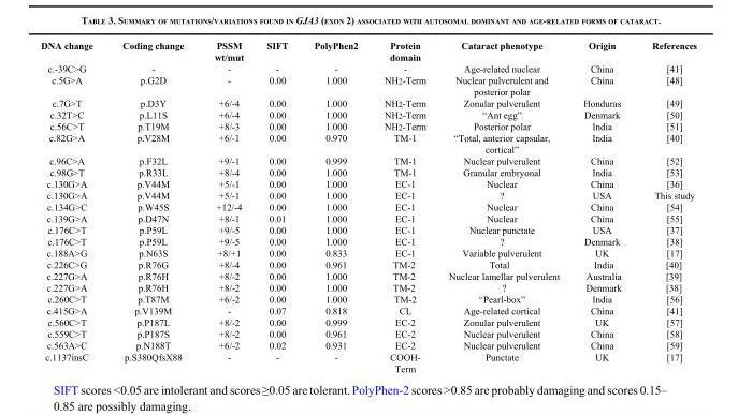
<table><thead><tr><td>DNA change</td><td>Coding change</td><td>PSSM wt/mut</td><td>SIFT</td><td>PolyPhen2</td><td>Protein domain</td><td>Cataract phenotype</td><td>Origin</td><td>References</td></tr></thead><tbody><tr><td>c.-39C&gt;G</td><td>-</td><td>-</td><td>-</td><td>-</td><td>-</td><td>Age-related nuclear</td><td>China</td><td>[41]</td></tr><tr><td>c.5G&gt;A</td><td>p.G2D</td><td>-</td><td>0.00</td><td>1.000</td><td>NH<sub>2</sub>-Term</td><td>Nuclear pulverulent and posterior polar</td><td>China</td><td>[48]</td></tr><tr><td>c.7G&gt;T</td><td>p.D3Y</td><td>+6/-4</td><td>0.00</td><td>1.000</td><td>NH<sub>2</sub>-Term</td><td>Zonular pulverulent</td><td>Honduras</td><td>[49]</td></tr><tr><td>c.32T&gt;C</td><td>p.L11S</td><td>+6/-4</td><td>0.00</td><td>1.000</td><td>NH<sub>2</sub>-Term</td><td>“Ant egg”</td><td>Denmark</td><td>[50]</td></tr><tr><td>c.56C&gt;T</td><td>p.T19M</td><td>+8/-3</td><td>0.00</td><td>1.000</td><td>NH<sub>2</sub>-Term</td><td>Posterior polar</td><td>India</td><td>[51]</td></tr><tr><td>c.82G&gt;A</td><td>p.V28M</td><td>+6/-1</td><td>0.00</td><td>0.970</td><td>TM-1</td><td>“Total, anterior capsular, cortical”</td><td>India</td><td>[40]</td></tr><tr><td>c.96C&gt;A</td><td>p.F32L</td><td>+9/-1</td><td>0.00</td><td>0.999</td><td>TM-1</td><td>Nuclear pulverulent</td><td>China</td><td>[52]</td></tr><tr><td>c.98G&gt;T</td><td>p.R33L</td><td>+8/-4</td><td>0.00</td><td>1.000</td><td>TM-1</td><td>Granular embryonal</td><td>India</td><td>[53]</td></tr><tr><td>c.130G&gt;A</td><td>p.V44M</td><td>+5/-1</td><td>0.00</td><td>1.000</td><td>EC-1</td><td>Nuclear</td><td>China</td><td>[36]</td></tr><tr><td>c.130G&gt;A</td><td>p.V44M</td><td>+5/-1</td><td>0.00</td><td>1.000</td><td>EC-1</td><td>?</td><td>USA</td><td>This study</td></tr><tr><td>c.134G&gt;C</td><td>p.W45S</td><td>+12/-4</td><td>0.00</td><td>1.000</td><td>EC-1</td><td>Nuclear</td><td>China</td><td>[54]</td></tr><tr><td>c.139G&gt;A</td><td>p.D47N</td><td>+8/-1</td><td>0.01</td><td>1.000</td><td>EC-1</td><td>Nuclear</td><td>China</td><td>[55]</td></tr><tr><td>c.176C&gt;T</td><td>p.P59L</td><td>+9/-5</td><td>0.00</td><td>1.000</td><td>EC-1</td><td>Nuclear punctate</td><td>USA</td><td>[37]</td></tr><tr><td>c.176C&gt;T</td><td>p.P59L</td><td>+9/-5</td><td>0.00</td><td>1.000</td><td>EC-1</td><td>?</td><td>Denmark</td><td>[38]</td></tr><tr><td>c.188A&gt;G</td><td>p.N63S</td><td>+8/+1</td><td>0.00</td><td>0.833</td><td>EC-1</td><td>Variable pulverulent</td><td>UK</td><td>[17]</td></tr><tr><td>c.226C&gt;G</td><td>p.R76G</td><td>+8/-4</td><td>0.00</td><td>0.961</td><td>TM-2</td><td>Total</td><td>India</td><td>[40]</td></tr><tr><td>c.227G&gt;A</td><td>p.R76H</td><td>+8/-2</td><td>0.00</td><td>1.000</td><td>TM-2</td><td>Nuclear lamellar pulverulent</td><td>Australia</td><td>[39]</td></tr><tr><td>c.227G&gt;A</td><td>p.R76H</td><td>+8/-2</td><td>0.00</td><td>1.000</td><td>TM-2</td><td>?</td><td>Denmark</td><td>[38]</td></tr><tr><td>c.260C&gt;T</td><td>p.T87M</td><td>+6/-2</td><td>0.00</td><td>1.000</td><td>TM-2</td><td>“Pearl-box”</td><td>India</td><td>[56]</td></tr><tr><td>c.415G&gt;A</td><td>p.V139M</td><td>-</td><td>0.07</td><td>0.818</td><td>CL</td><td>Age-related cortical</td><td>China</td><td>[41]</td></tr><tr><td>c.560C&gt;T</td><td>p.P187L</td><td>+8/-2</td><td>0.00</td><td>0.999</td><td>EC-2</td><td>Zonular pulverulent</td><td>UK</td><td>[57]</td></tr><tr><td>c.559C&gt;T</td><td>p.P187S</td><td>+8/-2</td><td>0.00</td><td>0.961</td><td>EC-2</td><td>Nuclear pulverulent</td><td>China</td><td>[58]</td></tr><tr><td>c.563A&gt;C</td><td>p.N188T</td><td>+6/-2</td><td>0.02</td><td>0.931</td><td>EC-2</td><td>Nuclear pulverulent</td><td>China</td><td>[59]</td></tr><tr><td>c.1137insC</td><td>p.S380QfsX88</td><td>-</td><td>-</td><td>-</td><td>COOH- Term</td><td>Punctate</td><td>UK</td><td>[17]</td></tr></tbody></table>